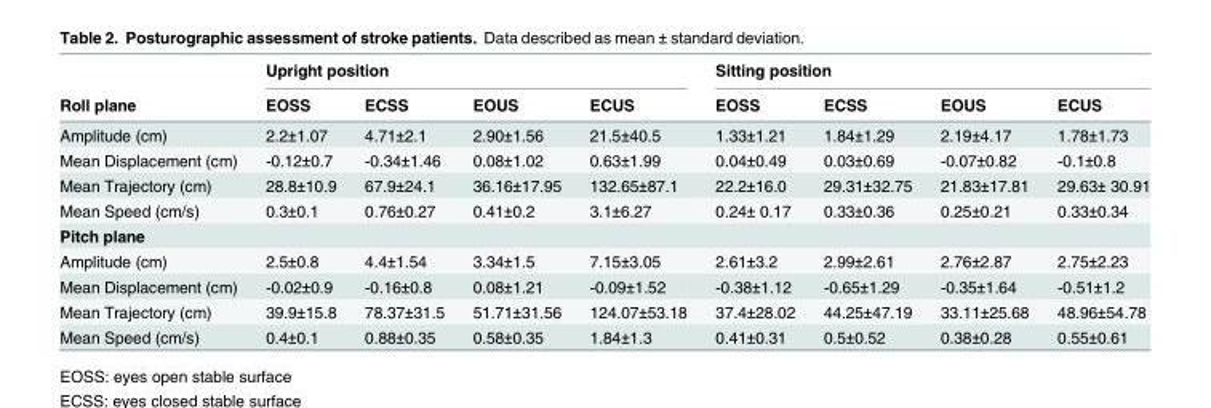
<table><thead><tr><td rowspan="2">Roll plane</td><td colspan="4">Upright position</td><td colspan="4">Sitting position</td></tr><tr><td>EOSS</td><td>ECSS</td><td>EOUS</td><td>ECUS</td><td>EOSS</td><td>ECSS</td><td>EOUS</td><td>ECUS</td></tr></thead><tbody><tr><td>Amplitude (cm)</td><td>2.2±1.07</td><td>4.71±2.1</td><td>2.90±1.56</td><td>21.5±40.5</td><td>1.33±1.21</td><td>1.84±1.29</td><td>2.19±4.17</td><td>1.78±1.73</td></tr><tr><td>Mean Displacement (cm)</td><td>-0.12±0.7</td><td>-0.34±1.46</td><td>0.08±1.02</td><td>0.63±1.99</td><td>0.04±0.49</td><td>0.03±0.69</td><td>-0.07±0.82</td><td>-0.1±0.8</td></tr><tr><td>Mean Trajectory (cm)</td><td>28.8±10.9</td><td>67.9±24.1</td><td>36.16±17.95</td><td>132.65±87.1</td><td>22.2±16.0</td><td>29.31±32.75</td><td>21.83±17.81</td><td>29.63± 30.91</td></tr><tr><td>Mean Speed (cm/s)</td><td>0.3±0.1</td><td>0.76±0.27</td><td>0.41±0.2</td><td>3.1±6.27</td><td>0.24± 0.17</td><td>0.33±0.36</td><td>0.25±0.21</td><td>0.33±0.34</td></tr><tr><td colspan="9">Pitch plane</td></tr><tr><td>Amplitude (cm)</td><td>2.5±0.8</td><td>4.4±1.54</td><td>3.34±1.5</td><td>7.15±3.05</td><td>2.61±3.2</td><td>2.99±2.61</td><td>2.76±2.87</td><td>2.75±2.23</td></tr><tr><td>Mean Displacement (cm)</td><td>-0.02±0.9</td><td>-0.16±0.8</td><td>0.08±1.21</td><td>-0.09±1.52</td><td>-0.38±1.12</td><td>-0.65±1.29</td><td>-0.35±1.64</td><td>-0.51±1.2</td></tr><tr><td>Mean Trajectory (cm)</td><td>39.9±15.8</td><td>78.37±31.5</td><td>51.71±31.56</td><td>124.07±53.18</td><td>37.4±28.02</td><td>44.25±47.19</td><td>33.11±25.68</td><td>48.96±54.78</td></tr><tr><td>Mean Speed (cm/s)</td><td>0.4±0.1</td><td>0.88±0.35</td><td>0.58±0.35</td><td>1.84±1.3</td><td>0.41±0.31</td><td>0.5±0.52</td><td>0.38±0.28</td><td>0.55±0.61</td></tr></tbody></table>